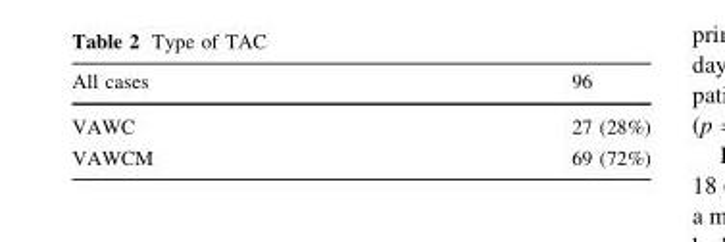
<table><thead><tr><td>All cases</td><td>96</td></tr></thead><tbody><tr><td>VAWC</td><td>27 (28%)</td></tr><tr><td>VAWCM</td><td>69 (72%)</td></tr></tbody></table>